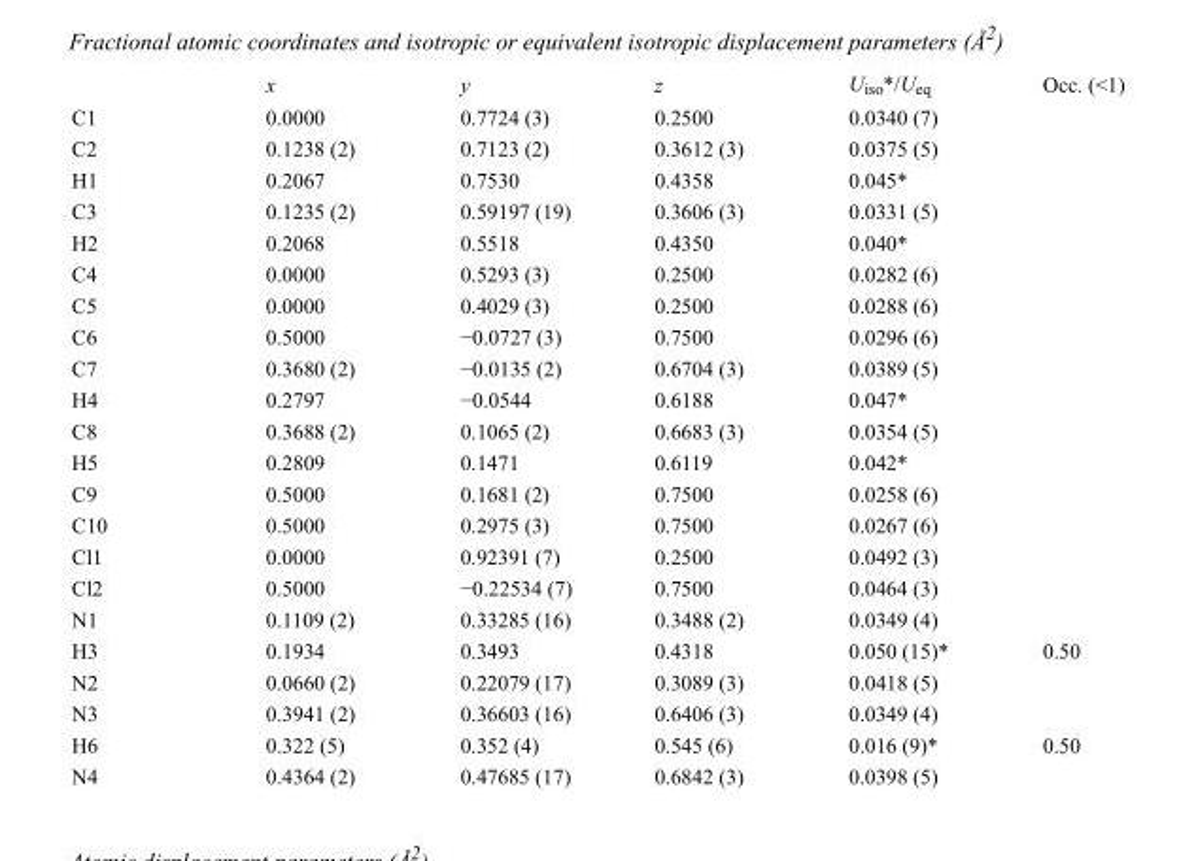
<table><thead><tr><td></td><td>x</td><td>y</td><td>z</td><td>U<sub>iso</sub>*/U<sub>eq</sub></td><td>Occ. (&lt;1)</td></tr></thead><tbody><tr><td>C1</td><td>0.0000</td><td>0.7724 (3)</td><td>0.2500</td><td>0.0340 (7)</td><td></td></tr><tr><td>C2</td><td>0.1238 (2)</td><td>0.7123 (2)</td><td>0.3612 (3)</td><td>0.0375 (5)</td><td></td></tr><tr><td>H1</td><td>0.2067</td><td>0.7530</td><td>0.4358</td><td>0.045*</td><td></td></tr><tr><td>C3</td><td>0.1235 (2)</td><td>0.59197 (19)</td><td>0.3606 (3)</td><td>0.0331 (5)</td><td></td></tr><tr><td>H2</td><td>0.2068</td><td>0.5518</td><td>0.4350</td><td>0.040*</td><td></td></tr><tr><td>C4</td><td>0.0000</td><td>0.5293 (3)</td><td>0.2500</td><td>0.0282 (6)</td><td></td></tr><tr><td>C5</td><td>0.0000</td><td>0.4029 (3)</td><td>0.2500</td><td>0.0288 (6)</td><td></td></tr><tr><td>C6</td><td>0.5000</td><td>−0.0727 (3)</td><td>0.7500</td><td>0.0296 (6)</td><td></td></tr><tr><td>C7</td><td>0.3680 (2)</td><td>−0.0135 (2)</td><td>0.6704 (3)</td><td>0.0389 (5)</td><td></td></tr><tr><td>H4</td><td>0.2797</td><td>−0.0544</td><td>0.6188</td><td>0.047*</td><td></td></tr><tr><td>C8</td><td>0.3688 (2)</td><td>0.1065 (2)</td><td>0.6683 (3)</td><td>0.0354 (5)</td><td></td></tr><tr><td>H5</td><td>0.2809</td><td>0.1471</td><td>0.6119</td><td>0.042*</td><td></td></tr><tr><td>C9</td><td>0.5000</td><td>0.1681 (2)</td><td>0.7500</td><td>0.0258 (6)</td><td></td></tr><tr><td>C10</td><td>0.5000</td><td>0.2975 (3)</td><td>0.7500</td><td>0.0267 (6)</td><td></td></tr><tr><td>Cl1</td><td>0.0000</td><td>0.92391 (7)</td><td>0.2500</td><td>0.0492 (3)</td><td></td></tr><tr><td>Cl2</td><td>0.5000</td><td>−0.22534 (7)</td><td>0.7500</td><td>0.0464 (3)</td><td></td></tr><tr><td>N1</td><td>0.1109 (2)</td><td>0.33285 (16)</td><td>0.3488 (2)</td><td>0.0349 (4)</td><td></td></tr><tr><td>H3</td><td>0.1934</td><td>0.3493</td><td>0.4318</td><td>0.050 (15)*</td><td>0.50</td></tr><tr><td>N2</td><td>0.0660 (2)</td><td>0.22079 (17)</td><td>0.3089 (3)</td><td>0.0418 (5)</td><td></td></tr><tr><td>N3</td><td>0.3941 (2)</td><td>0.36603 (16)</td><td>0.6406 (3)</td><td>0.0349 (4)</td><td></td></tr><tr><td>H6</td><td>0.322 (5)</td><td>0.352 (4)</td><td>0.545 (6)</td><td>0.016 (9)*</td><td>0.50</td></tr><tr><td>N4</td><td>0.4364 (2)</td><td>0.47685 (17)</td><td>0.6842 (3)</td><td>0.0398 (5)</td><td></td></tr></tbody></table>